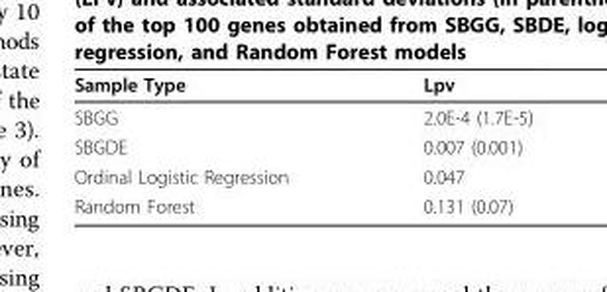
<table><thead><tr><td>Sample Type</td><td>Lpv</td></tr></thead><tbody><tr><td>SBGG</td><td>2.0E-4 (1.7E-5)</td></tr><tr><td>SBGDE</td><td>0.007 (0.001)</td></tr><tr><td>Ordinal Logistic Regression</td><td>0.047</td></tr><tr><td>Random Forest</td><td>0.131 (0.07)</td></tr></tbody></table>